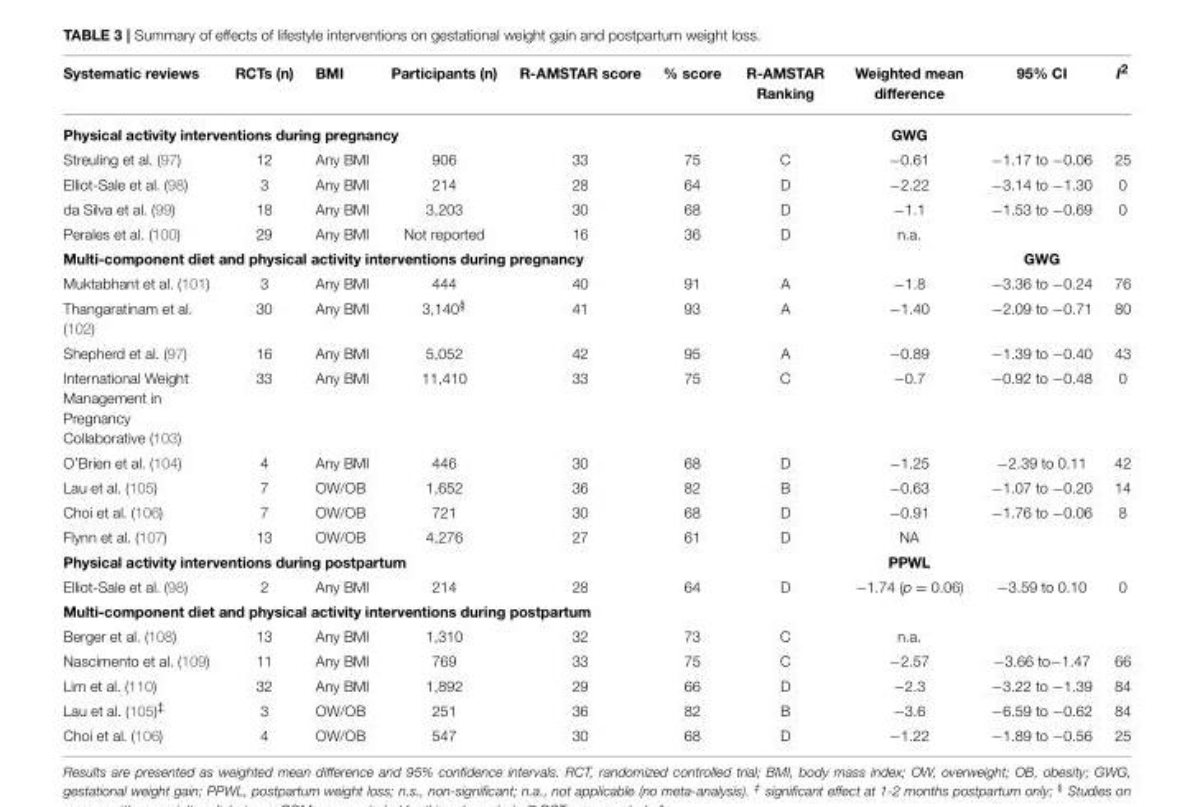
<table><thead><tr><td>Systematic reviews</td><td>RCTs (n)</td><td>BMI</td><td>Participants (n)</td><td>R-AMSTAR score</td><td>% score</td><td>R-AMSTAR Ranking</td><td>Weighted mean difference</td><td>95% CI</td><td>I<sup>2</sup></td></tr></thead><tbody><tr><td colspan="7">Physical activity interventions during pregnancy</td><td>GWG</td><td></td><td></td></tr><tr><td>Streuling et al. (97)</td><td>12</td><td>Any BMI</td><td>906</td><td>33</td><td>75</td><td>C</td><td>−0.61</td><td>−1.17 to −0.06</td><td>25</td></tr><tr><td>Elliot-Sale et al. (98)</td><td>3</td><td>Any BMI</td><td>214</td><td>28</td><td>64</td><td>D</td><td>−2.22</td><td>−3.14 to −1.30</td><td>0</td></tr><tr><td>da Silva et al. (99)</td><td>18</td><td>Any BMI</td><td>3,203</td><td>30</td><td>68</td><td>D</td><td>−1.1</td><td>−1.53 to −0.69</td><td>0</td></tr><tr><td>Perales et al. (100)</td><td>29</td><td>Any BMI</td><td>Not reported</td><td>16</td><td>36</td><td>D</td><td>n.a.</td><td></td><td></td></tr><tr><td colspan="8">Multi-component diet and physical activity interventions during pregnancy</td><td>GWG</td><td></td></tr><tr><td>Muktabhant et al. (101)</td><td>3</td><td>Any BMI</td><td>444</td><td>40</td><td>91</td><td>A</td><td>−1.8</td><td>−3.36 to −0.24</td><td>76</td></tr><tr><td>Thangaratinam et al. (102)</td><td>30</td><td>Any BMI</td><td>3,140<sup>§</sup></td><td>41</td><td>93</td><td>A</td><td>−1.40</td><td>−2.09 to −0.71</td><td>80</td></tr><tr><td>Shepherd et al. (97)</td><td>16</td><td>Any BMI</td><td>5,052</td><td>42</td><td>95</td><td>A</td><td>−0.89</td><td>−1.39 to −0.40</td><td>43</td></tr><tr><td>International Weight Management in Pregnancy Collaborative (103)</td><td>33</td><td>Any BMI</td><td>11,410</td><td>33</td><td>75</td><td>C</td><td>−0.7</td><td>−0.92 to −0.48</td><td>0</td></tr><tr><td>O’Brien et al. (104)</td><td>4</td><td>Any BMI</td><td>446</td><td>30</td><td>68</td><td>D</td><td>−1.25</td><td>−2.39 to 0.11</td><td>42</td></tr><tr><td>Lau et al. (105)</td><td>7</td><td>OW/OB</td><td>1,652</td><td>36</td><td>82</td><td>B</td><td>−0.63</td><td>−1.07 to −0.20</td><td>14</td></tr><tr><td>Choi et al. (106)</td><td>7</td><td>OW/OB</td><td>721</td><td>30</td><td>68</td><td>D</td><td>−0.91</td><td>−1.76 to −0.06</td><td>8</td></tr><tr><td>Flynn et al. (107)</td><td>13</td><td>OW/OB</td><td>4,276</td><td>27</td><td>61</td><td>D</td><td>NA</td><td></td><td></td></tr><tr><td colspan="7">Physical activity interventions during postpartum</td><td>PPWL</td><td></td><td></td></tr><tr><td>Elliot-Sale et al. (98)</td><td>2</td><td>Any BMI</td><td>214</td><td>28</td><td>64</td><td>D</td><td>−1.74 (p = 0.06)</td><td>−3.59 to 0.10</td><td>0</td></tr><tr><td colspan="10">Multi-component diet and physical activity interventions during postpartum</td></tr><tr><td>Berger et al. (108)</td><td>13</td><td>Any BMI</td><td>1,310</td><td>32</td><td>73</td><td>C</td><td>n.a.</td><td></td><td></td></tr><tr><td>Nascimento et al. (109)</td><td>11</td><td>Any BMI</td><td>769</td><td>33</td><td>75</td><td>C</td><td>−2.57</td><td>−3.66 to−1.47</td><td>66</td></tr><tr><td>Lim et al. (110)</td><td>32</td><td>Any BMI</td><td>1,892</td><td>29</td><td>66</td><td>D</td><td>−2.3</td><td>−3.22 to −1.39</td><td>84</td></tr><tr><td>Lau et al. (105)<sup>‡</sup></td><td>3</td><td>OW/OB</td><td>251</td><td>36</td><td>82</td><td>B</td><td>−3.6</td><td>−6.59 to −0.62</td><td>84</td></tr><tr><td>Choi et al. (106)</td><td>4</td><td>OW/OB</td><td>547</td><td>30</td><td>68</td><td>D</td><td>−1.22</td><td>−1.89 to −0.56</td><td>25</td></tr></tbody></table>